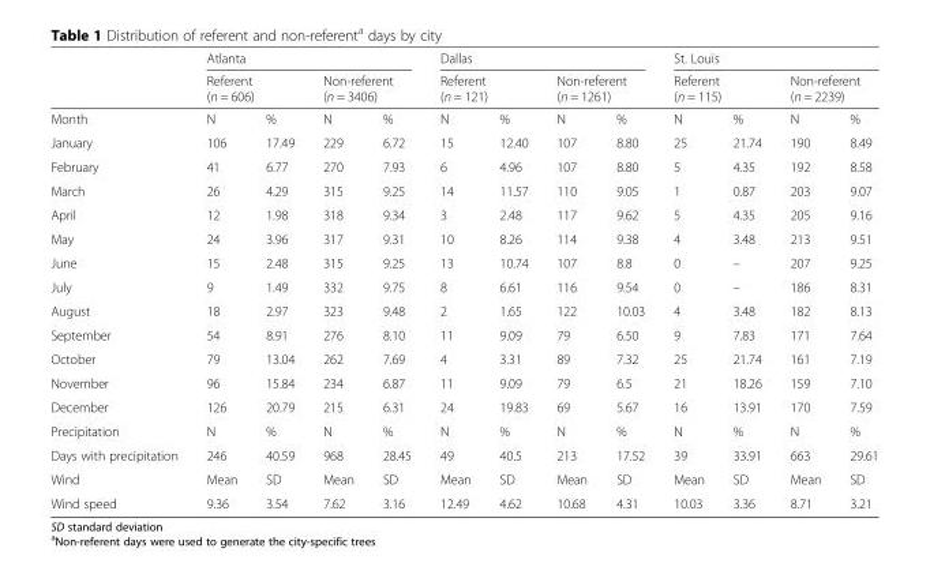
<table><thead><tr><td rowspan="3">Month</td><td colspan="4">Atlanta</td><td colspan="4">Dallas</td><td colspan="4">St. Louis</td></tr><tr><td colspan="2">Referent (n = 606)</td><td colspan="2">Non-referent (n = 3406)</td><td colspan="2">Referent (n = 121)</td><td colspan="2">Non-referent (n = 1261)</td><td colspan="2">Referent (n = 115)</td><td colspan="2">Non-referent (n = 2239)</td></tr><tr><td>N</td><td>%</td><td>N</td><td>%</td><td>N</td><td>%</td><td>N</td><td>%</td><td>N</td><td>%</td><td>N</td><td>%</td></tr></thead><tbody><tr><td>January</td><td>106</td><td>17.49</td><td>229</td><td>6.72</td><td>15</td><td>12.40</td><td>107</td><td>8.80</td><td>25</td><td>21.74</td><td>190</td><td>8.49</td></tr><tr><td>February</td><td>41</td><td>6.77</td><td>270</td><td>7.93</td><td>6</td><td>4.96</td><td>107</td><td>8.80</td><td>5</td><td>4.35</td><td>192</td><td>8.58</td></tr><tr><td>March</td><td>26</td><td>4.29</td><td>315</td><td>9.25</td><td>14</td><td>11.57</td><td>110</td><td>9.05</td><td>1</td><td>0.87</td><td>203</td><td>9.07</td></tr><tr><td>April</td><td>12</td><td>1.98</td><td>318</td><td>9.34</td><td>3</td><td>2.48</td><td>117</td><td>9.62</td><td>5</td><td>4.35</td><td>205</td><td>9.16</td></tr><tr><td>May</td><td>24</td><td>3.96</td><td>317</td><td>9.31</td><td>10</td><td>8.26</td><td>114</td><td>9.38</td><td>4</td><td>3.48</td><td>213</td><td>9.51</td></tr><tr><td>June</td><td>15</td><td>2.48</td><td>315</td><td>9.25</td><td>13</td><td>10.74</td><td>107</td><td>8.8</td><td>0</td><td>–</td><td>207</td><td>9.25</td></tr><tr><td>July</td><td>9</td><td>1.49</td><td>332</td><td>9.75</td><td>8</td><td>6.61</td><td>116</td><td>9.54</td><td>0</td><td>–</td><td>186</td><td>8.31</td></tr><tr><td>August</td><td>18</td><td>2.97</td><td>323</td><td>9.48</td><td>2</td><td>1.65</td><td>122</td><td>10.03</td><td>4</td><td>3.48</td><td>182</td><td>8.13</td></tr><tr><td>September</td><td>54</td><td>8.91</td><td>276</td><td>8.10</td><td>11</td><td>9.09</td><td>79</td><td>6.50</td><td>9</td><td>7.83</td><td>171</td><td>7.64</td></tr><tr><td>October</td><td>79</td><td>13.04</td><td>262</td><td>7.69</td><td>4</td><td>3.31</td><td>89</td><td>7.32</td><td>25</td><td>21.74</td><td>161</td><td>7.19</td></tr><tr><td>November</td><td>96</td><td>15.84</td><td>234</td><td>6.87</td><td>11</td><td>9.09</td><td>79</td><td>6.5</td><td>21</td><td>18.26</td><td>159</td><td>7.10</td></tr><tr><td>December</td><td>126</td><td>20.79</td><td>215</td><td>6.31</td><td>24</td><td>19.83</td><td>69</td><td>5.67</td><td>16</td><td>13.91</td><td>170</td><td>7.59</td></tr><tr><td>Precipitation</td><td>N</td><td>%</td><td>N</td><td>%</td><td>N</td><td>%</td><td>N</td><td>%</td><td>N</td><td>%</td><td>N</td><td>%</td></tr><tr><td>Days with precipitation</td><td>246</td><td>40.59</td><td>968</td><td>28.45</td><td>49</td><td>40.5</td><td>213</td><td>17.52</td><td>39</td><td>33.91</td><td>663</td><td>29.61</td></tr><tr><td>Wind</td><td>Mean</td><td>SD</td><td>Mean</td><td>SD</td><td>Mean</td><td>SD</td><td>Mean</td><td>SD</td><td>Mean</td><td>SD</td><td>Mean</td><td>SD</td></tr><tr><td>Wind speed</td><td>9.36</td><td>3.54</td><td>7.62</td><td>3.16</td><td>12.49</td><td>4.62</td><td>10.68</td><td>4.31</td><td>10.03</td><td>3.36</td><td>8.71</td><td>3.21</td></tr></tbody></table>